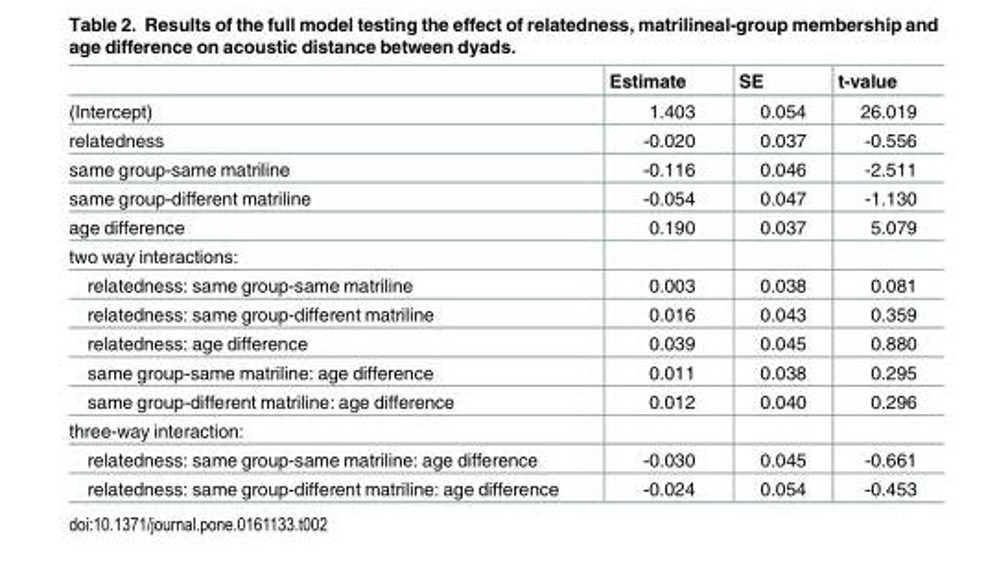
<table><thead><tr><td></td><td>Estimate</td><td>SE</td><td>t-value</td></tr></thead><tbody><tr><td>(Intercept)</td><td>1.403</td><td>0.054</td><td>26.019</td></tr><tr><td>relatedness</td><td>-0.020</td><td>0.037</td><td>-0.556</td></tr><tr><td>same group-same matriline</td><td>-0.116</td><td>0.046</td><td>-2.511</td></tr><tr><td>same group-different matriline</td><td>-0.054</td><td>0.047</td><td>-1.130</td></tr><tr><td>age difference</td><td>0.190</td><td>0.037</td><td>5.079</td></tr><tr><td colspan="4">two way interactions:</td></tr><tr><td>relatedness: same group-same matriline</td><td>0.003</td><td>0.038</td><td>0.081</td></tr><tr><td>relatedness: same group-different matriline</td><td>0.016</td><td>0.043</td><td>0.359</td></tr><tr><td>relatedness: age difference</td><td>0.039</td><td>0.045</td><td>0.880</td></tr><tr><td>same group-same matriline: age difference</td><td>0.011</td><td>0.038</td><td>0.295</td></tr><tr><td>same group-different matriline: age difference</td><td>0.012</td><td>0.040</td><td>0.296</td></tr><tr><td colspan="4">three-way interaction:</td></tr><tr><td>relatedness: same group-same matriline: age difference</td><td>-0.030</td><td>0.045</td><td>-0.661</td></tr><tr><td>relatedness: same group-different matriline: age difference</td><td>-0.024</td><td>0.054</td><td>-0.453</td></tr></tbody></table>